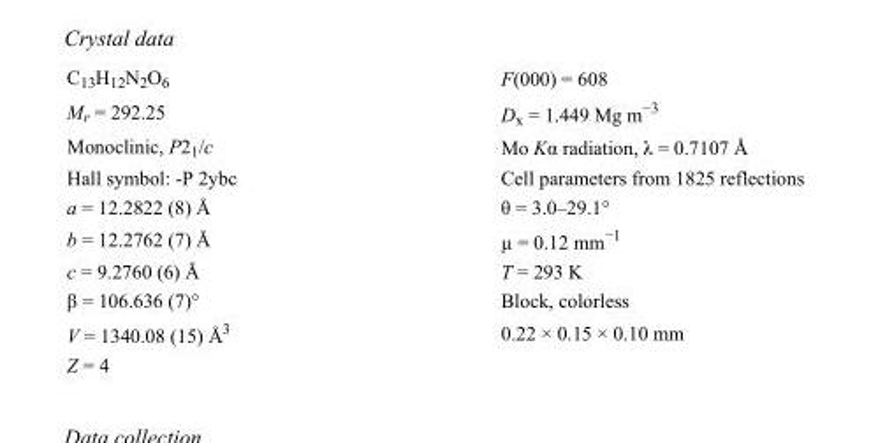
<table><tbody><tr><td>C<sub>13</sub>H<sub>12</sub>N<sub>2</sub>O<sub>6</sub></td><td>F(000) = 608</td></tr><tr><td>M<sub>r</sub> = 292.25</td><td>D<sub>x</sub> = 1.449 Mg m<sup>−3</sup></td></tr><tr><td>Monoclinic, P2<sub>1</sub>/c</td><td>Mo Kα radiation, λ = 0.7107 Å</td></tr><tr><td>Hall symbol: -P 2ybc</td><td>Cell parameters from 1825 reflections</td></tr><tr><td>a = 12.2822 (8) Å</td><td>θ = 3.0–29.1°</td></tr><tr><td>b = 12.2762 (7) Å</td><td>µ = 0.12 mm<sup>−1</sup></td></tr><tr><td>c = 9.2760 (6) Å</td><td>T = 293 K</td></tr><tr><td>β = 106.636 (7)°</td><td>Block, colorless</td></tr><tr><td>V = 1340.08 (15) Å<sup>3</sup></td><td>0.22 × 0.15 × 0.10 mm</td></tr><tr><td>Z = 4</td><td></td></tr></tbody></table>